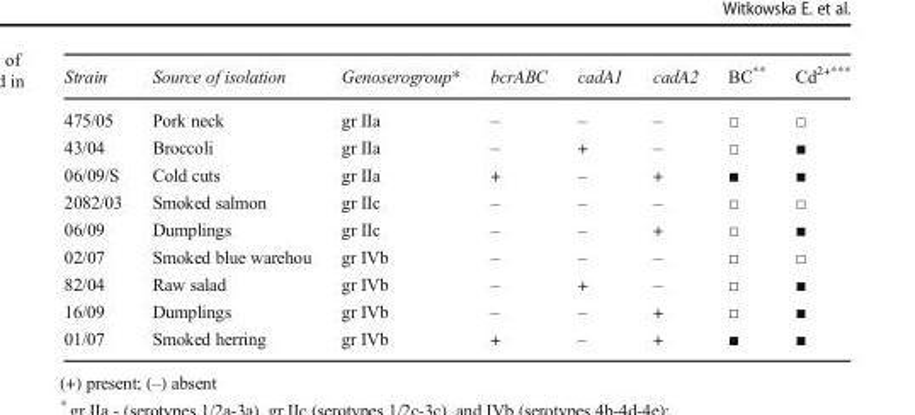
<table><thead><tr><td>Strain</td><td>Source of isolation</td><td>Genoserogroup*</td><td>bcrABC</td><td>cadA1</td><td>cadA2</td><td>BC**</td><td>Cd<sup>2+***</sup></td></tr></thead><tbody><tr><td>475/05</td><td>Pork neck</td><td>gr IIa</td><td>–</td><td>–</td><td>–</td><td>□</td><td>□</td></tr><tr><td>43/04</td><td>Broccoli</td><td>gr IIa</td><td>–</td><td>+</td><td>–</td><td>□</td><td>■</td></tr><tr><td>06/09/S</td><td>Cold cuts</td><td>gr IIa</td><td>+</td><td>–</td><td>+</td><td>■</td><td>■</td></tr><tr><td>2082/03</td><td>Smoked salmon</td><td>gr IIc</td><td>–</td><td>–</td><td>–</td><td>□</td><td>□</td></tr><tr><td>06/09</td><td>Dumplings</td><td>gr IIc</td><td>–</td><td>–</td><td>+</td><td>□</td><td>■</td></tr><tr><td>02/07</td><td>Smoked blue warehou</td><td>gr IVb</td><td>–</td><td>–</td><td>–</td><td>□</td><td>□</td></tr><tr><td>82/04</td><td>Raw salad</td><td>gr IVb</td><td>–</td><td>+</td><td>–</td><td>□</td><td>■</td></tr><tr><td>16/09</td><td>Dumplings</td><td>gr IVb</td><td>–</td><td>–</td><td>+</td><td>□</td><td>■</td></tr><tr><td>01/07</td><td>Smoked herring</td><td>gr IVb</td><td>+</td><td>–</td><td>+</td><td>■</td><td>■</td></tr></tbody></table>